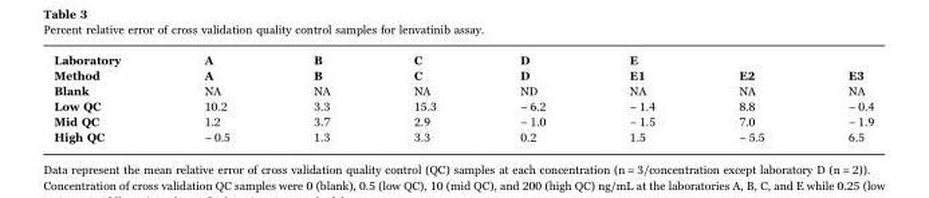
<table><tbody><tr><td>Laboratory</td><td>A</td><td>B</td><td>C</td><td>D</td><td colspan="3">E</td></tr><tr><td>Method</td><td>A</td><td>B</td><td>C</td><td>D</td><td>E1</td><td>E2</td><td>E3</td></tr><tr><td>Blank</td><td>NA</td><td>NA</td><td>NA</td><td>ND</td><td>NA</td><td>NA</td><td>NA</td></tr><tr><td>Low QC</td><td>10.2</td><td>3.3</td><td>15.3</td><td>− 6.2</td><td>− 1.4</td><td>8.8</td><td>− 0.4</td></tr><tr><td>Mid QC</td><td>1.2</td><td>3.7</td><td>2.9</td><td>− 1.0</td><td>− 1.5</td><td>7.0</td><td>− 1.9</td></tr><tr><td>High QC</td><td>− 0.5</td><td>1.3</td><td>3.3</td><td>0.2</td><td>1.5</td><td>− 5.5</td><td>6.5</td></tr></tbody></table>